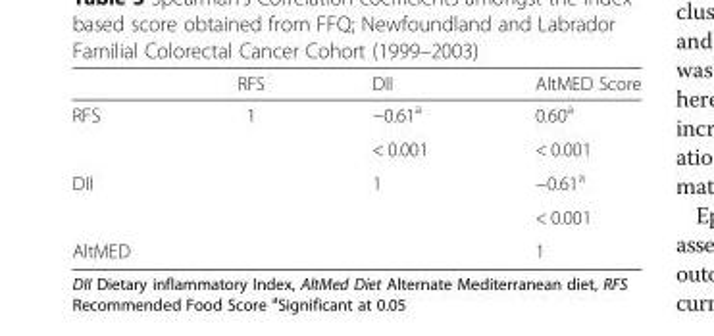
<table><thead><tr><td></td><td>RFS</td><td>DII</td><td>AltMED Score</td></tr></thead><tbody><tr><td rowspan="2">RFS</td><td rowspan="2">1</td><td>−0.61<sup>a</sup></td><td>0.60<sup>a</sup></td></tr><tr><td>&lt; 0.001</td><td>&lt; 0.001</td></tr><tr><td rowspan="2">DII</td><td rowspan="2"></td><td rowspan="2">1</td><td>−0.61<sup>a</sup></td></tr><tr><td>&lt; 0.001</td></tr><tr><td>AltMED</td><td></td><td></td><td>1</td></tr></tbody></table>